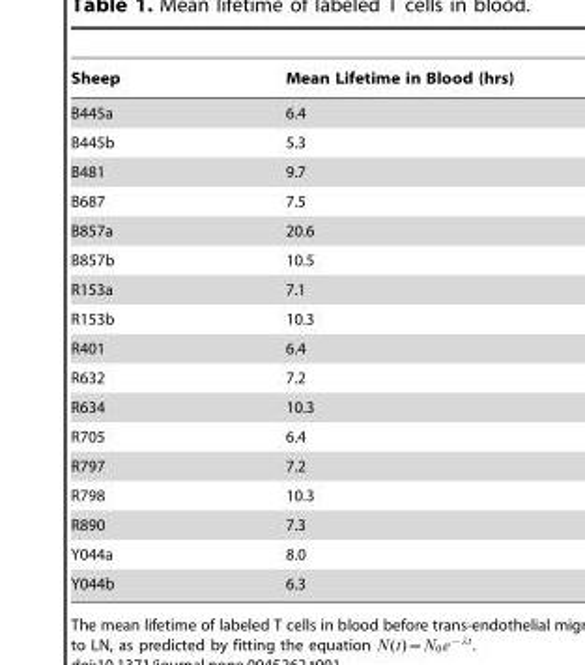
<table><thead><tr><td>Sheep</td><td>Mean Lifetime in Blood (hrs)</td></tr></thead><tbody><tr><td>B445a</td><td>6.4</td></tr><tr><td>B445b</td><td>5.3</td></tr><tr><td>B481</td><td>9.7</td></tr><tr><td>B687</td><td>7.5</td></tr><tr><td>B857a</td><td>20.6</td></tr><tr><td>B857b</td><td>10.5</td></tr><tr><td>R153a</td><td>7.1</td></tr><tr><td>R153b</td><td>10.3</td></tr><tr><td>R401</td><td>6.4</td></tr><tr><td>R632</td><td>7.2</td></tr><tr><td>R634</td><td>10.3</td></tr><tr><td>R705</td><td>6.4</td></tr><tr><td>R797</td><td>7.2</td></tr><tr><td>R798</td><td>10.3</td></tr><tr><td>R890</td><td>7.3</td></tr><tr><td>Y044a</td><td>8.0</td></tr><tr><td>Y044b</td><td>6.3</td></tr></tbody></table>